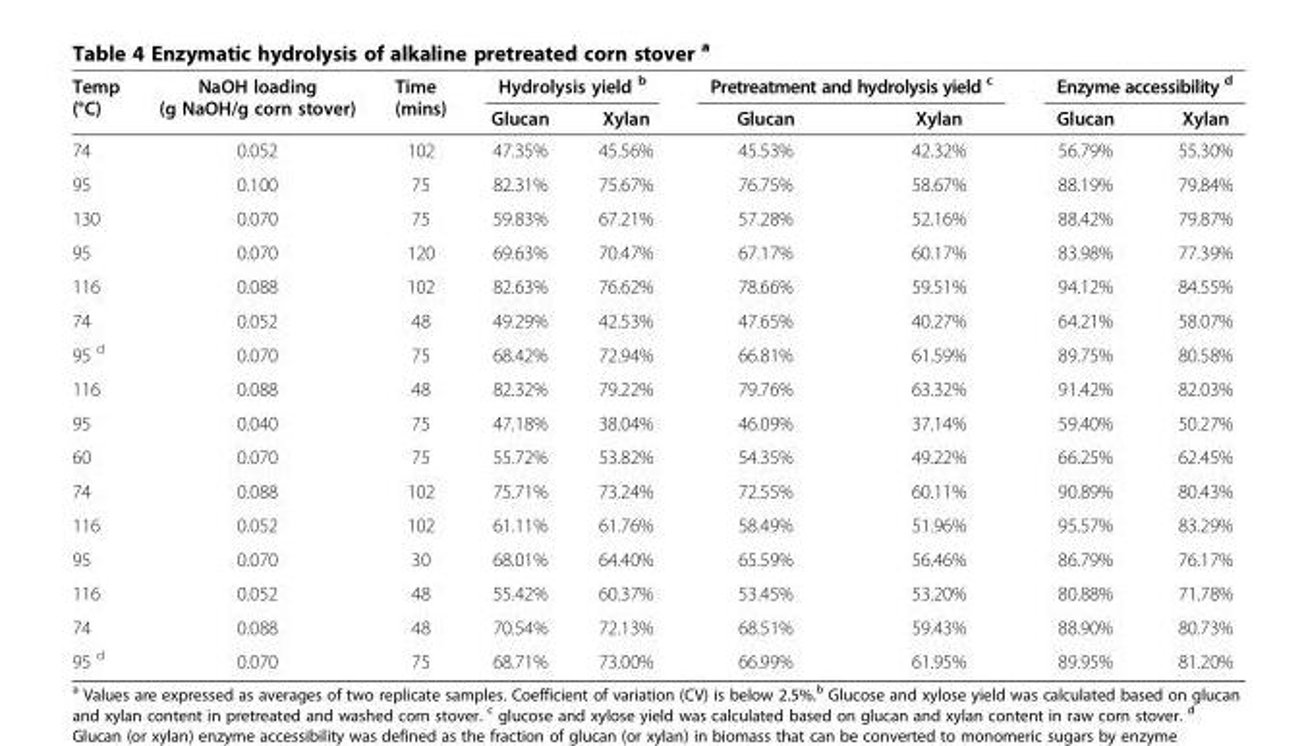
<table><thead><tr><td rowspan="2">Temp (°C)</td><td rowspan="2">NaOH loading (g NaOH/g corn stover)</td><td rowspan="2">Time (mins)</td><td colspan="2">Hydrolysis yield <sup>b</sup></td><td colspan="2">Pretreatment and hydrolysis yield <sup>c</sup></td><td colspan="2">Enzyme accessibility <sup>d</sup></td></tr><tr><td>Glucan</td><td>Xylan</td><td>Glucan</td><td>Xylan</td><td>Glucan</td><td>Xylan</td></tr></thead><tbody><tr><td>74</td><td>0.052</td><td>102</td><td>47.35%</td><td>45.56%</td><td>45.53%</td><td>42.32%</td><td>56.79%</td><td>55.30%</td></tr><tr><td>95</td><td>0.100</td><td>75</td><td>82.31%</td><td>75.67%</td><td>76.75%</td><td>58.67%</td><td>88.19%</td><td>79.84%</td></tr><tr><td>130</td><td>0.070</td><td>75</td><td>59.83%</td><td>67.21%</td><td>57.28%</td><td>52.16%</td><td>88.42%</td><td>79.87%</td></tr><tr><td>95</td><td>0.070</td><td>120</td><td>69.63%</td><td>70.47%</td><td>67.17%</td><td>60.17%</td><td>83.98%</td><td>77.39%</td></tr><tr><td>116</td><td>0.088</td><td>102</td><td>82.63%</td><td>76.62%</td><td>78.66%</td><td>59.51%</td><td>94.12%</td><td>84.55%</td></tr><tr><td>74</td><td>0.052</td><td>48</td><td>49.29%</td><td>42.53%</td><td>47.65%</td><td>40.27%</td><td>64.21%</td><td>58.07%</td></tr><tr><td>95 <sup>d</sup></td><td>0.070</td><td>75</td><td>68.42%</td><td>72.94%</td><td>66.81%</td><td>61.59%</td><td>89.75%</td><td>80.58%</td></tr><tr><td>116</td><td>0.088</td><td>48</td><td>82.32%</td><td>79.22%</td><td>79.76%</td><td>63.32%</td><td>91.42%</td><td>82.03%</td></tr><tr><td>95</td><td>0.040</td><td>75</td><td>47.18%</td><td>38.04%</td><td>46.09%</td><td>37.14%</td><td>59.40%</td><td>50.27%</td></tr><tr><td>60</td><td>0.070</td><td>75</td><td>55.72%</td><td>53.82%</td><td>54.35%</td><td>49.22%</td><td>66.25%</td><td>62.45%</td></tr><tr><td>74</td><td>0.088</td><td>102</td><td>75.71%</td><td>73.24%</td><td>72.55%</td><td>60.11%</td><td>90.89%</td><td>80.43%</td></tr><tr><td>116</td><td>0.052</td><td>102</td><td>61.11%</td><td>61.76%</td><td>58.49%</td><td>51.96%</td><td>95.57%</td><td>83.29%</td></tr><tr><td>95</td><td>0.070</td><td>30</td><td>68.01%</td><td>64.40%</td><td>65.59%</td><td>56.46%</td><td>86.79%</td><td>76.17%</td></tr><tr><td>116</td><td>0.052</td><td>48</td><td>55.42%</td><td>60.37%</td><td>53.45%</td><td>53.20%</td><td>80.88%</td><td>71.78%</td></tr><tr><td>74</td><td>0.088</td><td>48</td><td>70.54%</td><td>72.13%</td><td>68.51%</td><td>59.43%</td><td>88.90%</td><td>80.73%</td></tr><tr><td>95 <sup>d</sup></td><td>0.070</td><td>75</td><td>68.71%</td><td>73.00%</td><td>66.99%</td><td>61.95%</td><td>89.95%</td><td>81.20%</td></tr></tbody></table>